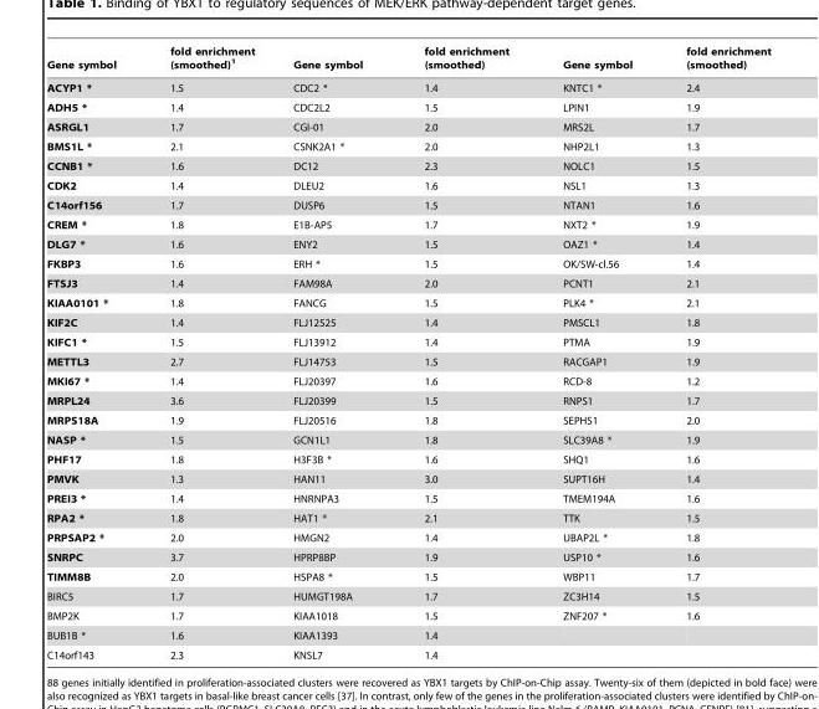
<table><thead><tr><td>Gene symbol</td><td>fold enrichment (smoothed)1</td><td>Gene symbol</td><td>fold enrichment (smoothed)</td><td>Gene symbol</td><td>fold enrichment (smoothed)</td></tr></thead><tbody><tr><td>ACYP1 *</td><td>1.5</td><td>CDC2 *</td><td>1.4</td><td>KNTC1 *</td><td>2.4</td></tr><tr><td>ADH5 *</td><td>1.4</td><td>CDC2L2</td><td>1.5</td><td>LPIN1</td><td>1.9</td></tr><tr><td>ASRGL1</td><td>1.7</td><td>CGI-01</td><td>2.0</td><td>MRS2L</td><td>1.7</td></tr><tr><td>BMS1L *</td><td>2.1</td><td>CSNK2A1 *</td><td>2.0</td><td>NHP2L1</td><td>1.3</td></tr><tr><td>CCNB1 *</td><td>1.6</td><td>DC12</td><td>2.3</td><td>NOLC1</td><td>1.5</td></tr><tr><td>CDK2</td><td>1.4</td><td>DLEU2</td><td>1.6</td><td>NSL1</td><td>1.3</td></tr><tr><td>C14orf156</td><td>1.7</td><td>DUSP6</td><td>1.5</td><td>NTAN1</td><td>1.6</td></tr><tr><td>CREM *</td><td>1.8</td><td>E1B-AP5</td><td>1.7</td><td>NXT2 *</td><td>1.9</td></tr><tr><td>DLG7 *</td><td>1.6</td><td>ENY2</td><td>1.5</td><td>OAZ1 *</td><td>1.4</td></tr><tr><td>FKBP3</td><td>1.6</td><td>ERH *</td><td>1.5</td><td>OK/SW-cl.56</td><td>1.4</td></tr><tr><td>FTSJ3</td><td>1.4</td><td>FAM98A</td><td>2.0</td><td>PCNT1</td><td>2.1</td></tr><tr><td>KIAA0101 *</td><td>1.8</td><td>FANCG</td><td>1.5</td><td>PLK4 *</td><td>2.1</td></tr><tr><td>KIF2C</td><td>1.4</td><td>FLJ12525</td><td>1.4</td><td>PMSCL1</td><td>1.8</td></tr><tr><td>KIFC1 *</td><td>1.5</td><td>FLJ13912</td><td>1.4</td><td>PTMA</td><td>1.9</td></tr><tr><td>METTL3</td><td>2.7</td><td>FLJ14753</td><td>1.5</td><td>RACGAP1</td><td>1.9</td></tr><tr><td>MKI67 *</td><td>1.4</td><td>FLJ20397</td><td>1.6</td><td>RCD-8</td><td>1.2</td></tr><tr><td>MRPL24</td><td>3.6</td><td>FLJ20399</td><td>1.5</td><td>RNPS1</td><td>1.7</td></tr><tr><td>MRPS18A</td><td>1.9</td><td>FLJ20516</td><td>1.8</td><td>SEPHS1</td><td>2.0</td></tr><tr><td>NASP *</td><td>1.5</td><td>GCN1L1</td><td>1.8</td><td>SLC39A8 *</td><td>1.9</td></tr><tr><td>PHF17</td><td>1.8</td><td>H3F3B *</td><td>1.6</td><td>SHQ1</td><td>1.6</td></tr><tr><td>PMVK</td><td>1.3</td><td>HAN11</td><td>3.0</td><td>SUPT16H</td><td>1.4</td></tr><tr><td>PREI3 *</td><td>1.4</td><td>HNRNPA3</td><td>1.5</td><td>TMEM194A</td><td>1.6</td></tr><tr><td>RPA2 *</td><td>1.8</td><td>HAT1 *</td><td>2.1</td><td>TTK</td><td>1.5</td></tr><tr><td>PRPSAP2 *</td><td>2.0</td><td>HMGN2</td><td>1.4</td><td>UBAP2L *</td><td>1.8</td></tr><tr><td>SNRPC</td><td>3.7</td><td>HPRP8BP</td><td>1.9</td><td>USP10 *</td><td>1.6</td></tr><tr><td>TIMM8B</td><td>2.0</td><td>HSPA8 *</td><td>1.5</td><td>WBP11</td><td>1.7</td></tr><tr><td>BIRC5</td><td>1.7</td><td>HUMGT198A</td><td>1.7</td><td>ZC3H14</td><td>1.5</td></tr><tr><td>BMP2K</td><td>1.7</td><td>KIAA1018</td><td>1.5</td><td>ZNF207 *</td><td>1.6</td></tr><tr><td>BUB1B *</td><td>1.6</td><td>KIAA1393</td><td>1.4</td><td></td><td></td></tr><tr><td>C14orf143</td><td>2.3</td><td>KNSL7</td><td>1.4</td><td></td><td></td></tr></tbody></table>